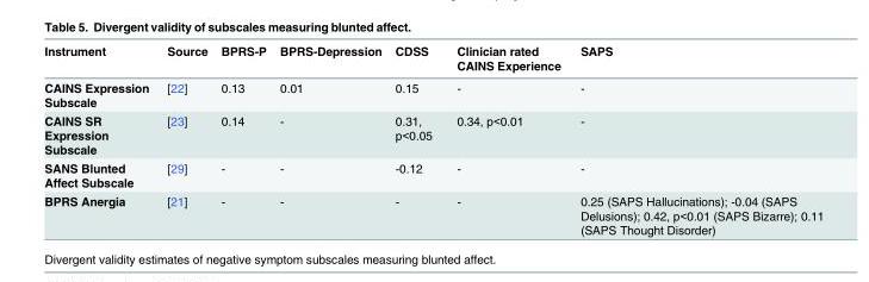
<table><thead><tr><td>Instrument</td><td>Source</td><td>BPRS-P</td><td>BPRS-Depression</td><td>CDSS</td><td>Clinician rated CAINS Experience</td><td>SAPS</td></tr></thead><tbody><tr><td>CAINS Expression Subscale</td><td>[22]</td><td>0.13</td><td>0.01</td><td>0.15</td><td>-</td><td>-</td></tr><tr><td>CAINS SR Expression Subscale</td><td>[23]</td><td>0.14</td><td>-</td><td>0.31, p&lt;0.05</td><td>0.34, p&lt;0.01</td><td>-</td></tr><tr><td>SANS Blunted Affect Subscale</td><td>[29]</td><td>-</td><td>-</td><td>-0.12</td><td>-</td><td>-</td></tr><tr><td>BPRS Anergia</td><td>[21]</td><td>-</td><td>-</td><td>-</td><td>-</td><td>0.25 (SAPS Hallucinations); -0.04 (SAPS Delusions); 0.42, p&lt;0.01 (SAPS Bizarre); 0.11 (SAPS Thought Disorder)</td></tr></tbody></table>